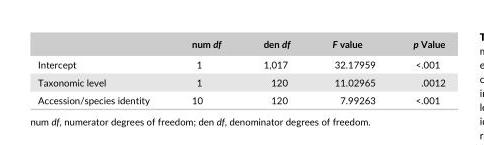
<table><thead><tr><td></td><td>num df</td><td>den df</td><td>F value</td><td>p Value</td></tr></thead><tbody><tr><td>Intercept</td><td>1</td><td>1,017</td><td>32.17959</td><td>&lt;.001</td></tr><tr><td>Taxonomic level</td><td>1</td><td>120</td><td>11.02965</td><td>.0012</td></tr><tr><td>Accession/species identity</td><td>10</td><td>120</td><td>7.99263</td><td>&lt;.001</td></tr></tbody></table>